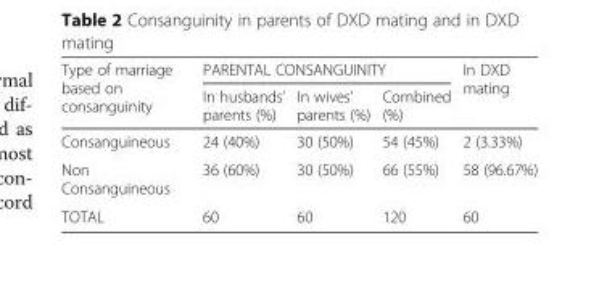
<table><thead><tr><td rowspan="2">Type of marriage based on consanguinity</td><td colspan="3">PARENTAL CONSANGUINITY</td><td rowspan="2">In DXD mating</td></tr><tr><td>In husbands’ parents (%)</td><td>In wives’ parents (%)</td><td>Combined (%)</td></tr></thead><tbody><tr><td>Consanguineous</td><td>24 (40%)</td><td>30 (50%)</td><td>54 (45%)</td><td>2 (3.33%)</td></tr><tr><td>Non Consanguineous</td><td>36 (60%)</td><td>30 (50%)</td><td>66 (55%)</td><td>58 (96.67%)</td></tr><tr><td>TOTAL</td><td>60</td><td>60</td><td>120</td><td>60</td></tr></tbody></table>